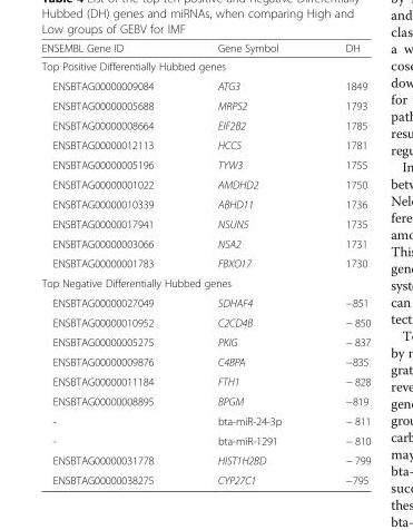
<table><thead><tr><td>ENSEMBL Gene ID</td><td>Gene Symbol</td><td>DH</td></tr></thead><tbody><tr><td colspan="3">Top Positive Differentially Hubbed genes</td></tr><tr><td>ENSBTAG00000009084</td><td>ATG3</td><td>1849</td></tr><tr><td>ENSBTAG00000005688</td><td>MRPS2</td><td>1793</td></tr><tr><td>ENSBTAG00000008664</td><td>EIF2B2</td><td>1785</td></tr><tr><td>ENSBTAG00000012113</td><td>HCCS</td><td>1781</td></tr><tr><td>ENSBTAG00000005196</td><td>TYW3</td><td>1755</td></tr><tr><td>ENSBTAG00000001022</td><td>AMDHD2</td><td>1750</td></tr><tr><td>ENSBTAG00000010339</td><td>ABHD11</td><td>1736</td></tr><tr><td>ENSBTAG00000017941</td><td>NSUN5</td><td>1735</td></tr><tr><td>ENSBTAG00000003066</td><td>NSA2</td><td>1731</td></tr><tr><td>ENSBTAG00000001783</td><td>FBXO17</td><td>1730</td></tr><tr><td colspan="3">Top Negative Differentially Hubbed genes</td></tr><tr><td>ENSBTAG00000027049</td><td>SDHAF4</td><td>−851</td></tr><tr><td>ENSBTAG00000010952</td><td>C2CD4B</td><td>− 850</td></tr><tr><td>ENSBTAG00000005275</td><td>PKIG</td><td>− 837</td></tr><tr><td>ENSBTAG00000009876</td><td>C4BPA</td><td>−835</td></tr><tr><td>ENSBTAG00000011184</td><td>FTH1</td><td>− 828</td></tr><tr><td>ENSBTAG00000008895</td><td>BPGM</td><td>−819</td></tr><tr><td>-</td><td>bta-miR-24-3p</td><td>− 811</td></tr><tr><td>-</td><td>bta-miR-1291</td><td>− 810</td></tr><tr><td>ENSBTAG00000031778</td><td>HIST1H2BD</td><td>− 799</td></tr><tr><td>ENSBTAG00000038275</td><td>CYP27C1</td><td>−795</td></tr></tbody></table>